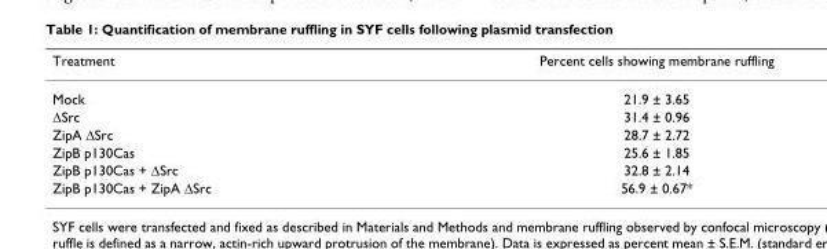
<table><thead><tr><td>Treatment</td><td>Percent cells showing membrane ruffling</td></tr></thead><tbody><tr><td>Mock</td><td>21.9 ± 3.65</td></tr><tr><td>ΔSrc</td><td>31.4 ± 0.96</td></tr><tr><td>ZipA ΔSrc</td><td>28.7 ± 2.72</td></tr><tr><td>ZipB p130Cas</td><td>25.6 ± 1.85</td></tr><tr><td>ZipB p130Cas + ΔSrc</td><td>32.8 ± 2.14</td></tr><tr><td>ZipB p130Cas + ZipA ΔSrc</td><td>56.9 ± 0.67*</td></tr></tbody></table>